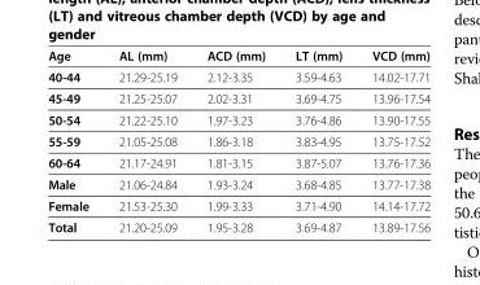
<table><thead><tr><td>Age</td><td>AL (mm)</td><td>ACD (mm)</td><td>LT (mm)</td><td>VCD (mm)</td></tr></thead><tbody><tr><td>40-44</td><td>21.29-25.19</td><td>2.12-3.35</td><td>3.59-4.63</td><td>14.02-17.71</td></tr><tr><td>45-49</td><td>21.25-25.07</td><td>2.02-3.31</td><td>3.69-4.75</td><td>13.96-17.54</td></tr><tr><td>50-54</td><td>21.22-25.10</td><td>1.97-3.23</td><td>3.76-4.86</td><td>13.90-17.55</td></tr><tr><td>55-59</td><td>21.05-25.08</td><td>1.86-3.18</td><td>3.83-4.95</td><td>13.75-17.52</td></tr><tr><td>60-64</td><td>21.17-24.91</td><td>1.81-3.15</td><td>3.87-5.07</td><td>13.76-17.36</td></tr><tr><td>Male</td><td>21.06-24.84</td><td>1.93-3.24</td><td>3.68-4.85</td><td>13.77-17.38</td></tr><tr><td>Female</td><td>21.53-25.30</td><td>1.99-3.33</td><td>3.71-4.90</td><td>14.14-17.72</td></tr><tr><td>Total</td><td>21.20-25.09</td><td>1.95-3.28</td><td>3.69-4.87</td><td>13.89-17.56</td></tr></tbody></table>